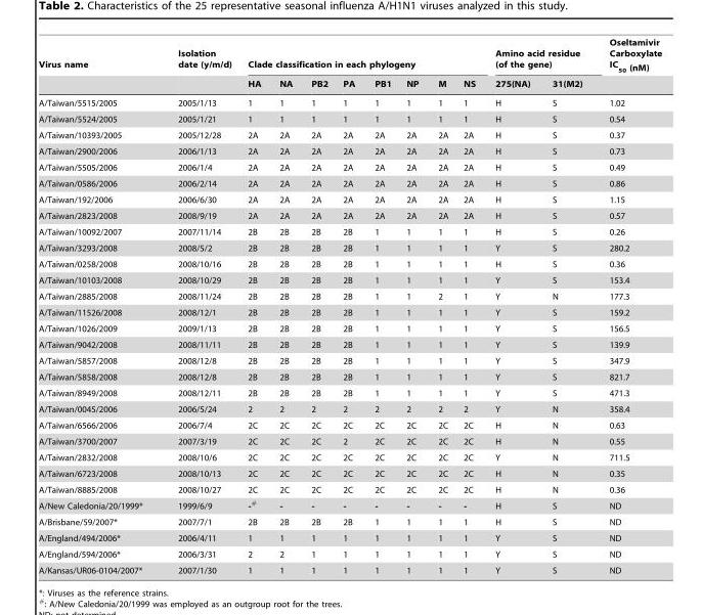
<table><thead><tr><td rowspan="2">Virus name</td><td rowspan="2">Isolation date (y/m/d)</td><td colspan="8">Clade classification in each phylogeny</td><td colspan="2">Amino acid residue (of the gene)</td><td rowspan="2">Oseltamivir Carboxylate IC<sub>50</sub> (nM)</td></tr><tr><td>HA</td><td>NA</td><td>PB2</td><td>PA</td><td>PB1</td><td>NP</td><td>M</td><td>NS</td><td>275(NA)</td><td>31(M2)</td></tr></thead><tbody><tr><td>A/Taiwan/5515/2005</td><td>2005/1/13</td><td>1</td><td>1</td><td>1</td><td>1</td><td>1</td><td>1</td><td>1</td><td>1</td><td>H</td><td>S</td><td>1.02</td></tr><tr><td>A/Taiwan/5524/2005</td><td>2005/1/21</td><td>1</td><td>1</td><td>1</td><td>1</td><td>1</td><td>1</td><td>1</td><td>1</td><td>H</td><td>S</td><td>0.54</td></tr><tr><td>A/Taiwan/10393/2005</td><td>2005/12/28</td><td>2A</td><td>2A</td><td>2A</td><td>2A</td><td>2A</td><td>2A</td><td>2A</td><td>2A</td><td>H</td><td>S</td><td>0.37</td></tr><tr><td>A/Taiwan/2900/2006</td><td>2006/1/13</td><td>2A</td><td>2A</td><td>2A</td><td>2A</td><td>2A</td><td>2A</td><td>2A</td><td>2A</td><td>H</td><td>S</td><td>0.73</td></tr><tr><td>A/Taiwan/5505/2006</td><td>2006/1/4</td><td>2A</td><td>2A</td><td>2A</td><td>2A</td><td>2A</td><td>2A</td><td>2A</td><td>2A</td><td>H</td><td>S</td><td>0.49</td></tr><tr><td>A/Taiwan/0586/2006</td><td>2006/2/14</td><td>2A</td><td>2A</td><td>2A</td><td>2A</td><td>2A</td><td>2A</td><td>2A</td><td>2A</td><td>H</td><td>S</td><td>0.86</td></tr><tr><td>A/Taiwan/192/2006</td><td>2006/6/30</td><td>2A</td><td>2A</td><td>2A</td><td>2A</td><td>2A</td><td>2A</td><td>2A</td><td>2A</td><td>H</td><td>S</td><td>1.15</td></tr><tr><td>A/Taiwan/2823/2008</td><td>2008/9/19</td><td>2A</td><td>2A</td><td>2A</td><td>2A</td><td>2A</td><td>2A</td><td>2A</td><td>2A</td><td>H</td><td>S</td><td>0.57</td></tr><tr><td>A/Taiwan/10092/2007</td><td>2007/11/14</td><td>2B</td><td>2B</td><td>2B</td><td>2B</td><td>1</td><td>1</td><td>1</td><td>1</td><td>H</td><td>S</td><td>0.26</td></tr><tr><td>A/Taiwan/3293/2008</td><td>2008/5/2</td><td>2B</td><td>2B</td><td>2B</td><td>2B</td><td>1</td><td>1</td><td>1</td><td>1</td><td>Y</td><td>S</td><td>280.2</td></tr><tr><td>A/Taiwan/0258/2008</td><td>2008/10/16</td><td>2B</td><td>2B</td><td>2B</td><td>2B</td><td>1</td><td>1</td><td>1</td><td>1</td><td>H</td><td>S</td><td>0.36</td></tr><tr><td>A/Taiwan/10103/2008</td><td>2008/10/29</td><td>2B</td><td>2B</td><td>2B</td><td>2B</td><td>1</td><td>1</td><td>1</td><td>1</td><td>Y</td><td>S</td><td>153.4</td></tr><tr><td>A/Taiwan/2885/2008</td><td>2008/11/24</td><td>2B</td><td>2B</td><td>2B</td><td>2B</td><td>1</td><td>1</td><td>2</td><td>1</td><td>Y</td><td>N</td><td>177.3</td></tr><tr><td>A/Taiwan/11526/2008</td><td>2008/12/1</td><td>2B</td><td>2B</td><td>2B</td><td>2B</td><td>1</td><td>1</td><td>1</td><td>1</td><td>Y</td><td>S</td><td>159.2</td></tr><tr><td>A/Taiwan/1026/2009</td><td>2009/1/13</td><td>2B</td><td>2B</td><td>2B</td><td>2B</td><td>1</td><td>1</td><td>1</td><td>1</td><td>Y</td><td>S</td><td>156.5</td></tr><tr><td>A/Taiwan/9042/2008</td><td>2008/11/11</td><td>2B</td><td>2B</td><td>2B</td><td>2B</td><td>1</td><td>1</td><td>1</td><td>1</td><td>Y</td><td>S</td><td>139.9</td></tr><tr><td>A/Taiwan/5857/2008</td><td>2008/12/8</td><td>2B</td><td>2B</td><td>2B</td><td>2B</td><td>1</td><td>1</td><td>1</td><td>1</td><td>Y</td><td>S</td><td>347.9</td></tr><tr><td>A/Taiwan/5858/2008</td><td>2008/12/8</td><td>2B</td><td>2B</td><td>2B</td><td>2B</td><td>1</td><td>1</td><td>1</td><td>1</td><td>Y</td><td>S</td><td>821.7</td></tr><tr><td>A/Taiwan/8949/2008</td><td>2008/12/11</td><td>2B</td><td>2B</td><td>2B</td><td>2B</td><td>1</td><td>1</td><td>1</td><td>1</td><td>Y</td><td>S</td><td>471.3</td></tr><tr><td>A/Taiwan/0045/2006</td><td>2006/5/24</td><td>2</td><td>2</td><td>2</td><td>2</td><td>2</td><td>2</td><td>2</td><td>2</td><td>Y</td><td>N</td><td>358.4</td></tr><tr><td>A/Taiwan/6566/2006</td><td>2006/7/4</td><td>2C</td><td>2C</td><td>2C</td><td>2C</td><td>2C</td><td>2C</td><td>2C</td><td>2C</td><td>H</td><td>N</td><td>0.63</td></tr><tr><td>A/Taiwan/3700/2007</td><td>2007/3/19</td><td>2C</td><td>2C</td><td>2C</td><td>2</td><td>2C</td><td>2C</td><td>2C</td><td>2C</td><td>H</td><td>N</td><td>0.55</td></tr><tr><td>A/Taiwan/2832/2008</td><td>2008/10/6</td><td>2C</td><td>2C</td><td>2C</td><td>2C</td><td>2C</td><td>2C</td><td>2C</td><td>2C</td><td>Y</td><td>N</td><td>711.5</td></tr><tr><td>A/Taiwan/6723/2008</td><td>2008/10/13</td><td>2C</td><td>2C</td><td>2C</td><td>2C</td><td>2C</td><td>2C</td><td>2C</td><td>2C</td><td>H</td><td>N</td><td>0.35</td></tr><tr><td>A/Taiwan/8885/2008</td><td>2008/10/27</td><td>2C</td><td>2C</td><td>2C</td><td>2C</td><td>2C</td><td>2C</td><td>2C</td><td>2C</td><td>H</td><td>N</td><td>0.36</td></tr><tr><td>A/New Caledonia/20/1999*</td><td>1999/6/9</td><td>-#</td><td>-</td><td>-</td><td>-</td><td>-</td><td>-</td><td>-</td><td>-</td><td>H</td><td>S</td><td>ND</td></tr><tr><td>A/Brisbane/59/2007*</td><td>2007/7/1</td><td>2B</td><td>2B</td><td>2B</td><td>2B</td><td>1</td><td>1</td><td>1</td><td>1</td><td>H</td><td>S</td><td>ND</td></tr><tr><td>A/England/494/2006*</td><td>2006/4/11</td><td>1</td><td>1</td><td>1</td><td>1</td><td>1</td><td>1</td><td>1</td><td>1</td><td>Y</td><td>S</td><td>ND</td></tr><tr><td>A/England/594/2006*</td><td>2006/3/31</td><td>2</td><td>2</td><td>1</td><td>1</td><td>1</td><td>1</td><td>1</td><td>1</td><td>Y</td><td>S</td><td>ND</td></tr><tr><td>A/Kansas/UR06-0104/2007*</td><td>2007/1/30</td><td>1</td><td>1</td><td>1</td><td>1</td><td>1</td><td>1</td><td>1</td><td>1</td><td>Y</td><td>S</td><td>ND</td></tr></tbody></table>